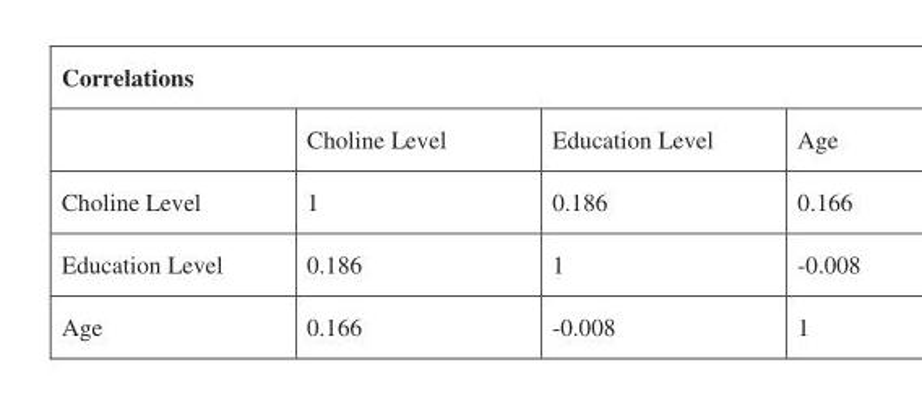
<table><thead><tr><td colspan="4">Correlations</td></tr><tr><td></td><td>Choline Level</td><td>Education Level</td><td>Age</td></tr></thead><tbody><tr><td>Choline Level</td><td>1</td><td>0.186</td><td>0.166</td></tr><tr><td>Education Level</td><td>0.186</td><td>1</td><td>-0.008</td></tr><tr><td>Age</td><td>0.166</td><td>-0.008</td><td>1</td></tr></tbody></table>